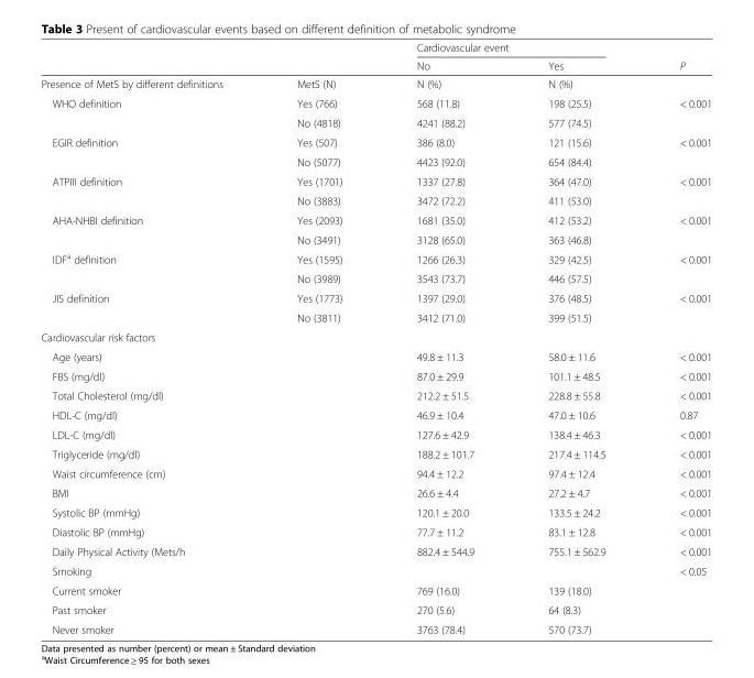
<table><thead><tr><td rowspan="2"></td><td rowspan="2"></td><td colspan="2">Cardiovascular event</td><td rowspan="2">P</td></tr><tr><td>No</td><td>Yes</td></tr></thead><tbody><tr><td>Presence of MetS by different definitions</td><td>MetS (N)</td><td>N (%)</td><td>N (%)</td><td></td></tr><tr><td rowspan="2">WHO definition</td><td>Yes (766)</td><td>568 (11.8)</td><td>198 (25.5)</td><td>&lt; 0.001</td></tr><tr><td>No (4818)</td><td>4241 (88.2)</td><td>577 (74.5)</td><td></td></tr><tr><td rowspan="2">EGIR definition</td><td>Yes (507)</td><td>386 (8.0)</td><td>121 (15.6)</td><td>&lt; 0.001</td></tr><tr><td>No (5077)</td><td>4423 (92.0)</td><td>654 (84.4)</td><td></td></tr><tr><td rowspan="2">ATPIII definition</td><td>Yes (1701)</td><td>1337 (27.8)</td><td>364 (47.0)</td><td>&lt; 0.001</td></tr><tr><td>No (3883)</td><td>3472 (72.2)</td><td>411 (53.0)</td><td></td></tr><tr><td rowspan="2">AHA-NHBI definition</td><td>Yes (2093)</td><td>1681 (35.0)</td><td>412 (53.2)</td><td>&lt; 0.001</td></tr><tr><td>No (3491)</td><td>3128 (65.0)</td><td>363 (46.8)</td><td></td></tr><tr><td rowspan="2">IDF<sup>a</sup> definition</td><td>Yes (1595)</td><td>1266 (26.3)</td><td>329 (42.5)</td><td>&lt; 0.001</td></tr><tr><td>No (3989)</td><td>3543 (73.7)</td><td>446 (57.5)</td><td></td></tr><tr><td rowspan="2">JIS definition</td><td>Yes (1773)</td><td>1397 (29.0)</td><td>376 (48.5)</td><td>&lt; 0.001</td></tr><tr><td>No (3811)</td><td>3412 (71.0)</td><td>399 (51.5)</td><td></td></tr><tr><td colspan="5">Cardiovascular risk factors</td></tr><tr><td>Age (years)</td><td></td><td>49.8 ± 11.3</td><td>58.0 ± 11.6</td><td>&lt; 0.001</td></tr><tr><td>FBS (mg/dl)</td><td></td><td>87.0 ± 29.9</td><td>101.1 ± 48.5</td><td>&lt; 0.001</td></tr><tr><td>Total Cholesterol (mg/dl)</td><td></td><td>212.2 ± 51.5</td><td>228.8 ± 55.8</td><td>&lt; 0.001</td></tr><tr><td>HDL-C (mg/dl)</td><td></td><td>46.9 ± 10.4</td><td>47.0 ± 10.6</td><td>0.87</td></tr><tr><td>LDL-C (mg/dl)</td><td></td><td>127.6 ± 42.9</td><td>138.4 ± 46.3</td><td>&lt; 0.001</td></tr><tr><td>Triglyceride (mg/dl)</td><td></td><td>188.2 ± 101.7</td><td>217.4 ± 114.5</td><td>&lt; 0.001</td></tr><tr><td>Waist circumference (cm)</td><td></td><td>94.4 ± 12.2</td><td>97.4 ± 12.4</td><td>&lt; 0.001</td></tr><tr><td>BMI</td><td></td><td>26.6 ± 4.4</td><td>27.2 ± 4.7</td><td>&lt; 0.001</td></tr><tr><td>Systolic BP (mmHg)</td><td></td><td>120.1 ± 20.0</td><td>133.5 ± 24.2</td><td>&lt; 0.001</td></tr><tr><td>Diastolic BP (mmHg)</td><td></td><td>77.7 ± 11.2</td><td>83.1 ± 12.8</td><td>&lt; 0.001</td></tr><tr><td>Daily Physical Activity (Mets/h</td><td></td><td>882.4 ± 544.9</td><td>755.1 ± 562.9</td><td>&lt; 0.001</td></tr><tr><td>Smoking</td><td></td><td></td><td></td><td>&lt; 0.05</td></tr><tr><td>Current smoker</td><td></td><td>769 (16.0)</td><td>139 (18.0)</td><td></td></tr><tr><td>Past smoker</td><td></td><td>270 (5.6)</td><td>64 (8.3)</td><td></td></tr><tr><td>Never smoker</td><td></td><td>3763 (78.4)</td><td>570 (73.7)</td><td></td></tr></tbody></table>